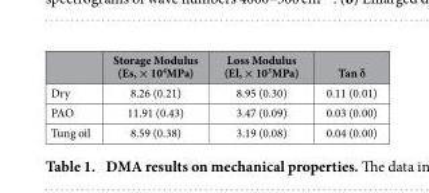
<table><thead><tr><td></td><td>Storage Modulus (Es, × 10<sup>4</sup>MPa)</td><td>Loss Modulus (El, × 10<sup>3</sup>MPa)</td><td>Tan δ</td></tr></thead><tbody><tr><td>Dry</td><td>8.26 (0.21)</td><td>8.95 (0.30)</td><td>0.11 (0.01)</td></tr><tr><td>PAO</td><td>11.91 (0.43)</td><td>3.47 (0.09)</td><td>0.03 (0.00)</td></tr><tr><td>Tung oil</td><td>8.59 (0.38)</td><td>3.19 (0.08)</td><td>0.04 (0.00)</td></tr></tbody></table>